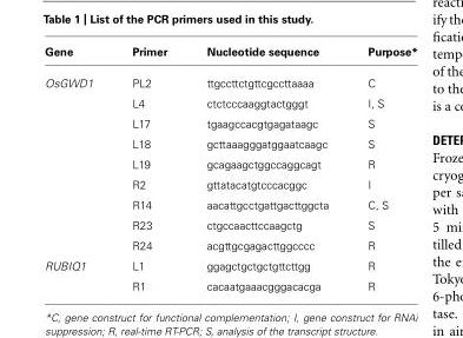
<table><thead><tr><td>Gene</td><td>Primer</td><td>Nucleotide sequence</td><td>Purpose*</td></tr></thead><tbody><tr><td rowspan="9">OsGWD1</td><td>PL2</td><td>ttgccttctgttcgccttaaaa</td><td>C</td></tr><tr><td>L4</td><td>ctctcccaaggtactgggt</td><td>I, S</td></tr><tr><td>L17</td><td>tgaagccacgtgagataagc</td><td>S</td></tr><tr><td>L18</td><td>gcttaaagggatggaatcaagc</td><td>S</td></tr><tr><td>L19</td><td>gcagaagctggccaggcagt</td><td>R</td></tr><tr><td>R2</td><td>gttatacatgtcccacggc</td><td>I</td></tr><tr><td>R14</td><td>aacattgcctgattgacttggcta</td><td>C, S</td></tr><tr><td>R23</td><td>ctgccaacttccaagctg</td><td>S</td></tr><tr><td>R24</td><td>acgttgcgagacttggcccc</td><td>R</td></tr><tr><td rowspan="2">RUBIQ1</td><td>L1</td><td>ggagctgctgctgttcttgg</td><td>R</td></tr><tr><td>R1</td><td>cacaatgaaacgggacacga</td><td>R</td></tr></tbody></table>